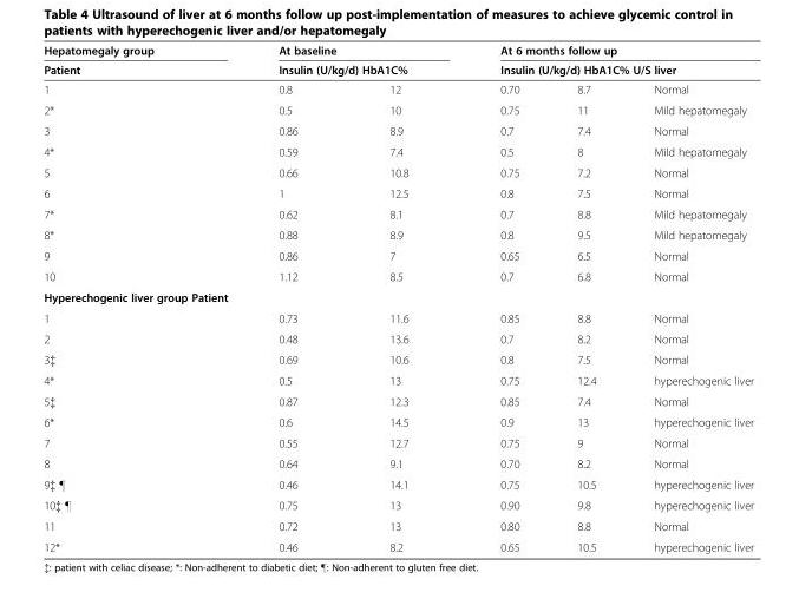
<table><thead><tr><td rowspan="3">Hepatomegaly group Patient 1</td><td rowspan="2" colspan="2">At baseline Insulin (U/kg/d) HbA1C%</td><td rowspan="2" colspan="3">At 6 months follow up Insulin (U/kg/d) HbA1C% U/S liver</td></tr><tr></tr><tr><td>0.8</td><td>12</td><td>0.70</td><td>8.7</td><td>Normal</td></tr></thead><tbody><tr><td>2*</td><td>0.5</td><td>10</td><td>0.75</td><td>11</td><td>Mild hepatomegaly</td></tr><tr><td>3</td><td>0.86</td><td>8.9</td><td>0.7</td><td>7.4</td><td>Normal</td></tr><tr><td>4*</td><td>0.59</td><td>7.4</td><td>0.5</td><td>8</td><td>Mild hepatomegaly</td></tr><tr><td>5</td><td>0.66</td><td>10.8</td><td>0.75</td><td>7.2</td><td>Normal</td></tr><tr><td>6</td><td>1</td><td>12.5</td><td>0.8</td><td>7.5</td><td>Normal</td></tr><tr><td>7*</td><td>0.62</td><td>8.1</td><td>0.7</td><td>8.8</td><td>Mild hepatomegaly</td></tr><tr><td>8*</td><td>0.88</td><td>8.9</td><td>0.8</td><td>9.5</td><td>Mild hepatomegaly</td></tr><tr><td>9</td><td>0.86</td><td>7</td><td>0.65</td><td>6.5</td><td>Normal</td></tr><tr><td>10</td><td>1.12</td><td>8.5</td><td>0.7</td><td>6.8</td><td>Normal</td></tr><tr><td colspan="6">Hyperechogenic liver group Patient</td></tr><tr><td>1</td><td>0.73</td><td>11.6</td><td>0.85</td><td>8.8</td><td>Normal</td></tr><tr><td>2</td><td>0.48</td><td>13.6</td><td>0.7</td><td>8.2</td><td>Normal</td></tr><tr><td>3‡</td><td>0.69</td><td>10.6</td><td>0.8</td><td>7.5</td><td>Normal</td></tr><tr><td>4*</td><td>0.5</td><td>13</td><td>0.75</td><td>12.4</td><td>hyperechogenic liver</td></tr><tr><td>5‡</td><td>0.87</td><td>12.3</td><td>0.85</td><td>7.4</td><td>Normal</td></tr><tr><td>6*</td><td>0.6</td><td>14.5</td><td>0.9</td><td>13</td><td>hyperechogenic liver</td></tr><tr><td>7</td><td>0.55</td><td>12.7</td><td>0.75</td><td>9</td><td>Normal</td></tr><tr><td>8</td><td>0.64</td><td>9.1</td><td>0.70</td><td>8.2</td><td>Normal</td></tr><tr><td>9‡ ¶</td><td>0.46</td><td>14.1</td><td>0.75</td><td>10.5</td><td>hyperechogenic liver</td></tr><tr><td>10‡ ¶</td><td>0.75</td><td>13</td><td>0.90</td><td>9.8</td><td>hyperechogenic liver</td></tr><tr><td>11</td><td>0.72</td><td>13</td><td>0.80</td><td>8.8</td><td>Normal</td></tr><tr><td>12*</td><td>0.46</td><td>8.2</td><td>0.65</td><td>10.5</td><td>hyperechogenic liver</td></tr></tbody></table>